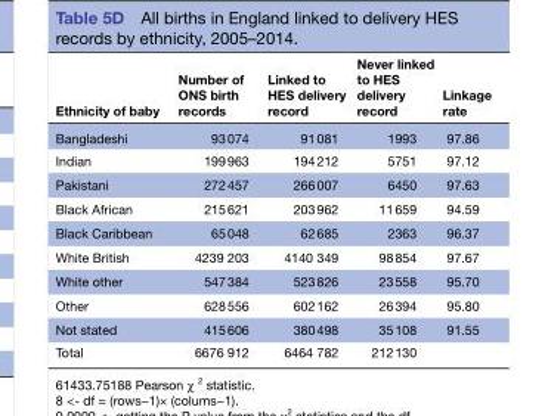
<table><thead><tr><td>Ethnicity of baby</td><td>Number of ONS birth records</td><td>Linked to HES delivery record</td><td>Never linked to HES delivery record</td><td>Linkage rate</td></tr></thead><tbody><tr><td>Bangladeshi</td><td>93 074</td><td>91 081</td><td>1993</td><td>97.86</td></tr><tr><td>Indian</td><td>199 963</td><td>194 212</td><td>5751</td><td>97.12</td></tr><tr><td>Pakistani</td><td>272 457</td><td>266 007</td><td>6450</td><td>97.63</td></tr><tr><td>Black African</td><td>215 621</td><td>203 962</td><td>11 659</td><td>94.59</td></tr><tr><td>Black Caribbean</td><td>65 048</td><td>62 685</td><td>2363</td><td>96.37</td></tr><tr><td>White British</td><td>4239 203</td><td>4140 349</td><td>98 854</td><td>97.67</td></tr><tr><td>White other</td><td>547 384</td><td>523 826</td><td>23 558</td><td>95.70</td></tr><tr><td>Other</td><td>628 556</td><td>602 162</td><td>26 394</td><td>95.80</td></tr><tr><td>Not stated</td><td>415 606</td><td>380 498</td><td>35 108</td><td>91.55</td></tr><tr><td>Total</td><td>6676 912</td><td>6464 782</td><td>212 130</td><td></td></tr></tbody></table>